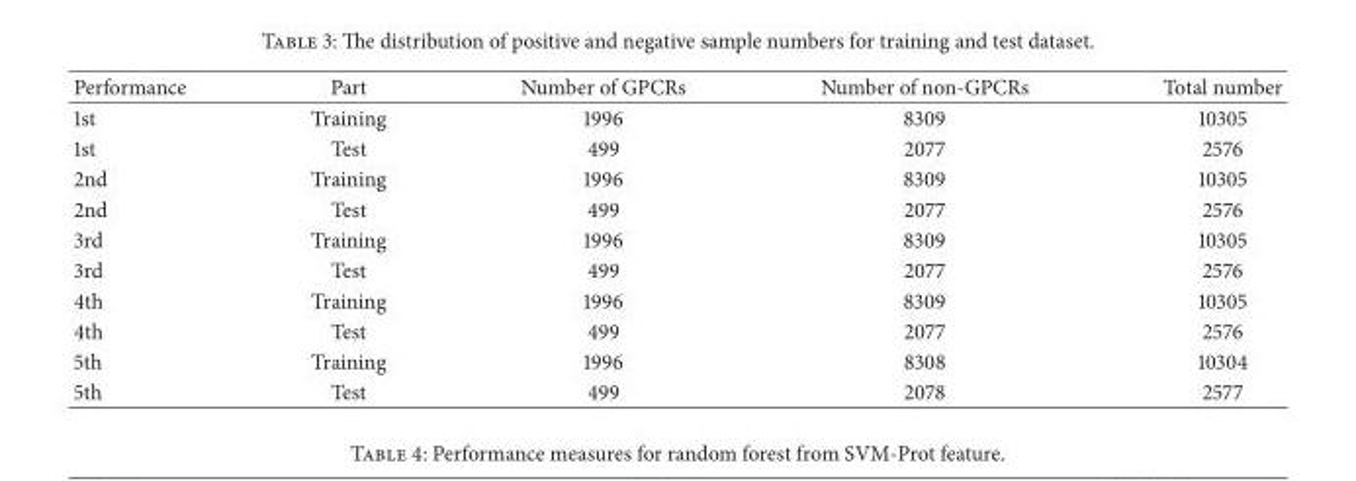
<table><thead><tr><td>Performance</td><td>Part</td><td>Number of GPCRs</td><td>Number of non-GPCRs</td><td>Total number</td></tr></thead><tbody><tr><td>1st</td><td>Training</td><td>1996</td><td>8309</td><td>10305</td></tr><tr><td>1st</td><td>Test</td><td>499</td><td>2077</td><td>2576</td></tr><tr><td>2nd</td><td>Training</td><td>1996</td><td>8309</td><td>10305</td></tr><tr><td>2nd</td><td>Test</td><td>499</td><td>2077</td><td>2576</td></tr><tr><td>3rd</td><td>Training</td><td>1996</td><td>8309</td><td>10305</td></tr><tr><td>3rd</td><td>Test</td><td>499</td><td>2077</td><td>2576</td></tr><tr><td>4th</td><td>Training</td><td>1996</td><td>8309</td><td>10305</td></tr><tr><td>4th</td><td>Test</td><td>499</td><td>2077</td><td>2576</td></tr><tr><td>5th</td><td>Training</td><td>1996</td><td>8308</td><td>10304</td></tr><tr><td>5th</td><td>Test</td><td>499</td><td>2078</td><td>2577</td></tr></tbody></table>